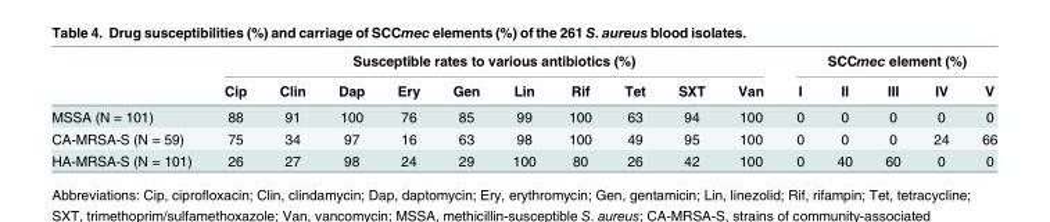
<table><thead><tr><td rowspan="2"></td><td colspan="10">Susceptible rates to various antibiotics (%)</td><td colspan="5">SCCmec element (%)</td></tr><tr><td>Cip</td><td>Clin</td><td>Dap</td><td>Ery</td><td>Gen</td><td>Lin</td><td>Rif</td><td>Tet</td><td>SXT</td><td>Van</td><td>I</td><td>II</td><td>III</td><td>IV</td><td>V</td></tr></thead><tbody><tr><td>MSSA (N = 101)</td><td>88</td><td>91</td><td>100</td><td>76</td><td>85</td><td>99</td><td>100</td><td>63</td><td>94</td><td>100</td><td>0</td><td>0</td><td>0</td><td>0</td><td>0</td></tr><tr><td>CA-MRSA-S (N = 59)</td><td>75</td><td>34</td><td>97</td><td>16</td><td>63</td><td>98</td><td>100</td><td>49</td><td>95</td><td>100</td><td>0</td><td>0</td><td>0</td><td>24</td><td>66</td></tr><tr><td>HA-MRSA-S (N = 101)</td><td>26</td><td>27</td><td>98</td><td>24</td><td>29</td><td>100</td><td>80</td><td>26</td><td>42</td><td>100</td><td>0</td><td>40</td><td>60</td><td>0</td><td>0</td></tr></tbody></table>